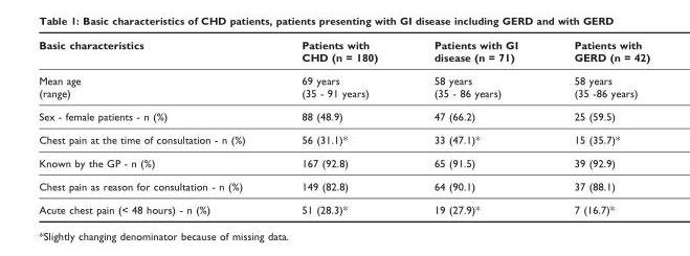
<table><thead><tr><td>Basic characteristics</td><td>Patients with CHD (n = 180)</td><td>Patients with GI disease (n = 71)</td><td>Patients with GERD (n = 42)</td></tr></thead><tbody><tr><td>Mean age (range)</td><td>69 years (35 - 91 years)</td><td>58 years (35 - 86 years)</td><td>58 years (35 -86 years)</td></tr><tr><td>Sex - female patients - n (%)</td><td>88 (48.9)</td><td>47 (66.2)</td><td>25 (59.5)</td></tr><tr><td>Chest pain at the time of consultation - n (%)</td><td>56 (31.1)*</td><td>33 (47.1)*</td><td>15 (35.7)*</td></tr><tr><td>Known by the GP - n (%)</td><td>167 (92.8)</td><td>65 (91.5)</td><td>39 (92.9)</td></tr><tr><td>Chest pain as reason for consultation - n (%)</td><td>149 (82.8)</td><td>64 (90.1)</td><td>37 (88.1)</td></tr><tr><td>Acute chest pain (&lt; 48 hours) - n (%)</td><td>51 (28.3)*</td><td>19 (27.9)*</td><td>7 (16.7)*</td></tr></tbody></table>